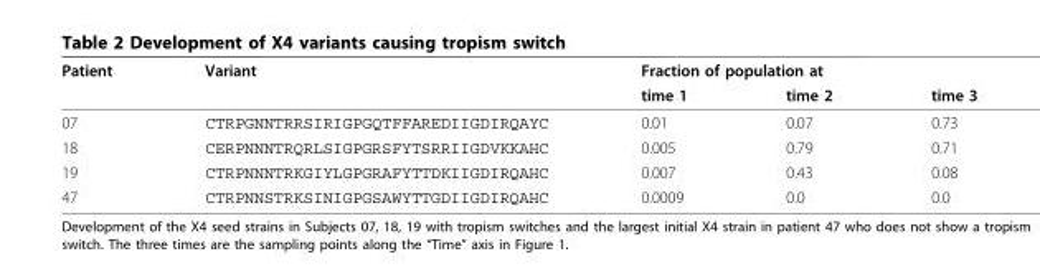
<table><thead><tr><td rowspan="2">Patient</td><td rowspan="2">Variant</td><td colspan="3">Fraction of population at</td></tr><tr><td>time 1</td><td>time 2</td><td>time 3</td></tr></thead><tbody><tr><td>07</td><td>CTRPGNNTRRSIRIGPGQTFFAREDIIGDIRQAYC</td><td>0.01</td><td>0.07</td><td>0.73</td></tr><tr><td>18</td><td>CERPNNNTRQRLSIGPGRSFYTSRRIIGDVKKAHC</td><td>0.005</td><td>0.79</td><td>0.71</td></tr><tr><td>19</td><td>CTRPNNNTRKGIYLGPGRAFYTTDKIIGDIRQAHC</td><td>0.007</td><td>0.43</td><td>0.08</td></tr><tr><td>47</td><td>CTRPNNSTRKSINIGPGSAWYTTGDIIGDIRQAHC</td><td>0.0009</td><td>0.0</td><td>0.0</td></tr></tbody></table>